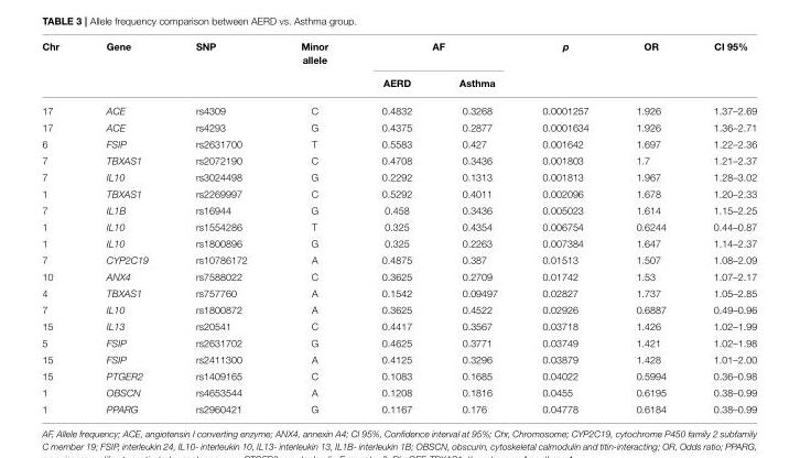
<table><thead><tr><td rowspan="2">Chr</td><td rowspan="2">Gene</td><td rowspan="2">SNP</td><td rowspan="2">Minor allele</td><td colspan="2">AF</td><td rowspan="2">p</td><td rowspan="2">OR</td><td rowspan="2">CI 95%</td></tr><tr><td>AERD</td><td>Asthma</td></tr></thead><tbody><tr><td>17</td><td>ACE</td><td>rs4309</td><td>C</td><td>0.4832</td><td>0.3268</td><td>0.0001257</td><td>1.926</td><td>1.37–2.69</td></tr><tr><td>17</td><td>ACE</td><td>rs4293</td><td>G</td><td>0.4375</td><td>0.2877</td><td>0.0001634</td><td>1.926</td><td>1.36–2.71</td></tr><tr><td>6</td><td>FSIP</td><td>rs2631700</td><td>T</td><td>0.5583</td><td>0.427</td><td>0.001642</td><td>1.697</td><td>1.22–2.36</td></tr><tr><td>7</td><td>TBXAS1</td><td>rs2072190</td><td>C</td><td>0.4708</td><td>0.3436</td><td>0.001803</td><td>1.7</td><td>1.21–2.37</td></tr><tr><td>7</td><td>IL10</td><td>rs3024498</td><td>G</td><td>0.2292</td><td>0.1313</td><td>0.001813</td><td>1.967</td><td>1.28–3.02</td></tr><tr><td>1</td><td>TBXAS1</td><td>rs2269997</td><td>C</td><td>0.5292</td><td>0.4011</td><td>0.002096</td><td>1.678</td><td>1.20–2.33</td></tr><tr><td>7</td><td>IL1B</td><td>rs16944</td><td>G</td><td>0.458</td><td>0.3436</td><td>0.005023</td><td>1.614</td><td>1.15–2.25</td></tr><tr><td>1</td><td>IL10</td><td>rs1554286</td><td>T</td><td>0.325</td><td>0.4354</td><td>0.006754</td><td>0.6244</td><td>0.44–0.87</td></tr><tr><td>1</td><td>IL10</td><td>rs1800896</td><td>G</td><td>0.325</td><td>0.2263</td><td>0.007384</td><td>1.647</td><td>1.14–2.37</td></tr><tr><td>7</td><td>CYP2C19</td><td>rs10786172</td><td>A</td><td>0.4875</td><td>0.387</td><td>0.01513</td><td>1.507</td><td>1.08–2.09</td></tr><tr><td>10</td><td>ANX4</td><td>rs7588022</td><td>C</td><td>0.3625</td><td>0.2709</td><td>0.01742</td><td>1.53</td><td>1.07–2.17</td></tr><tr><td>4</td><td>TBXAS1</td><td>rs757760</td><td>A</td><td>0.1542</td><td>0.09497</td><td>0.02827</td><td>1.737</td><td>1.05–2.85</td></tr><tr><td>7</td><td>IL10</td><td>rs1800872</td><td>A</td><td>0.3625</td><td>0.4522</td><td>0.02926</td><td>0.6887</td><td>0.49–0.96</td></tr><tr><td>15</td><td>IL13</td><td>rs20541</td><td>C</td><td>0.4417</td><td>0.3567</td><td>0.03718</td><td>1.426</td><td>1.02–1.99</td></tr><tr><td>5</td><td>FSIP</td><td>rs2631702</td><td>G</td><td>0.4625</td><td>0.3771</td><td>0.03749</td><td>1.421</td><td>1.02–1.98</td></tr><tr><td>15</td><td>FSIP</td><td>rs2411300</td><td>A</td><td>0.4125</td><td>0.3296</td><td>0.03879</td><td>1.428</td><td>1.01–2.00</td></tr><tr><td>15</td><td>PTGER2</td><td>rs1409165</td><td>C</td><td>0.1083</td><td>0.1685</td><td>0.04022</td><td>0.5994</td><td>0.36–0.98</td></tr><tr><td>1</td><td>OBSCN</td><td>rs4653544</td><td>A</td><td>0.1208</td><td>0.1816</td><td>0.0455</td><td>0.6195</td><td>0.38–0.99</td></tr><tr><td>1</td><td>PPARG</td><td>rs2960421</td><td>G</td><td>0.1167</td><td>0.176</td><td>0.04778</td><td>0.6184</td><td>0.38–0.99</td></tr></tbody></table>